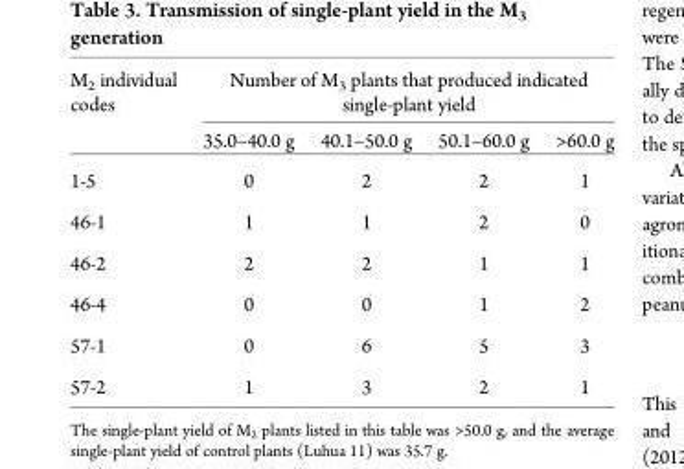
<table><thead><tr><td rowspan="2">M<sub>2</sub> individual codes</td><td colspan="4">Number of M<sub>3</sub> plants that produced indicated single-plant yield</td></tr><tr><td>35.0–40.0 g</td><td>40.1–50.0 g</td><td>50.1–60.0 g</td><td>&gt;60.0 g</td></tr></thead><tbody><tr><td>1-5</td><td>0</td><td>2</td><td>2</td><td>1</td></tr><tr><td>46-1</td><td>1</td><td>1</td><td>2</td><td>0</td></tr><tr><td>46-2</td><td>2</td><td>2</td><td>1</td><td>1</td></tr><tr><td>46-4</td><td>0</td><td>0</td><td>1</td><td>2</td></tr><tr><td>57-1</td><td>0</td><td>6</td><td>5</td><td>3</td></tr><tr><td>57-2</td><td>1</td><td>3</td><td>2</td><td>1</td></tr></tbody></table>